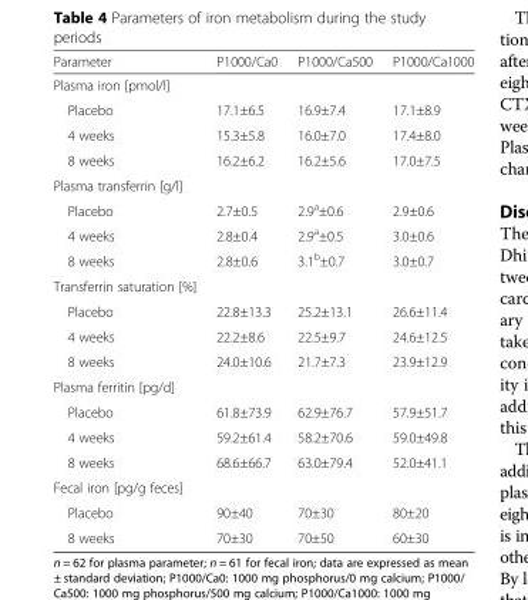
<table><thead><tr><td>Parameter</td><td>P1000/Ca0</td><td>P1000/Ca500</td><td>P1000/Ca1000</td></tr></thead><tbody><tr><td colspan="4">Plasma iron [pmol/l]</td></tr><tr><td>Placebo</td><td>17.1±6.5</td><td>16.9±7.4</td><td>17.1±8.9</td></tr><tr><td>4 weeks</td><td>15.3±5.8</td><td>16.0±7.0</td><td>17.4±8.0</td></tr><tr><td>8 weeks</td><td>16.2±6.2</td><td>16.2±5.6</td><td>17.0±7.5</td></tr><tr><td colspan="4">Plasma transferrin [g/l]</td></tr><tr><td>Placebo</td><td>2.7±0.5</td><td>2.9<sup>a</sup>±0.6</td><td>2.9±0.6</td></tr><tr><td>4 weeks</td><td>2.8±0.4</td><td>2.9<sup>a</sup>±0.5</td><td>3.0±0.6</td></tr><tr><td>8 weeks</td><td>2.8±0.6</td><td>3.1<sup>b</sup>±0.7</td><td>3.0±0.7</td></tr><tr><td colspan="4">Transferrin saturation [%]</td></tr><tr><td>Placebo</td><td>22.8±13.3</td><td>25.2±13.1</td><td>26.6±11.4</td></tr><tr><td>4 weeks</td><td>22.2±8.6</td><td>22.5±9.7</td><td>24.6±12.5</td></tr><tr><td>8 weeks</td><td>24.0±10.6</td><td>21.7±7.3</td><td>23.9±12.9</td></tr><tr><td colspan="4">Plasma ferritin [pg/d]</td></tr><tr><td>Placebo</td><td>61.8±73.9</td><td>62.9±76.7</td><td>57.9±51.7</td></tr><tr><td>4 weeks</td><td>59.2±61.4</td><td>58.2±70.6</td><td>59.0±49.8</td></tr><tr><td>8 weeks</td><td>68.6±66.7</td><td>63.0±79.4</td><td>52.0±41.1</td></tr><tr><td colspan="4">Fecal iron [pg/g feces]</td></tr><tr><td>Placebo</td><td>90±40</td><td>70±30</td><td>80±20</td></tr><tr><td>8 weeks</td><td>70±30</td><td>70±50</td><td>60±30</td></tr></tbody></table>